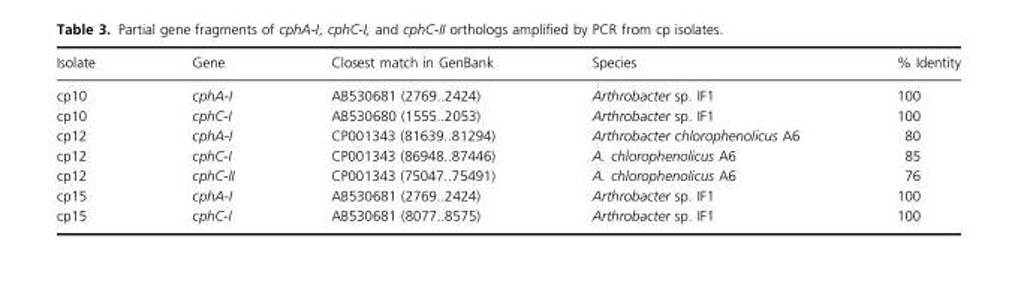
<table><thead><tr><td>Isolate</td><td>Gene</td><td>Closest match in GenBank</td><td>Species</td><td>% Identity</td></tr></thead><tbody><tr><td>cp10</td><td>cphA-I</td><td>AB530681 (2769..2424)</td><td>Arthrobacter sp. IF1</td><td>100</td></tr><tr><td>cp10</td><td>cphC-I</td><td>AB530680 (1555..2053)</td><td>Arthrobacter sp. IF1</td><td>100</td></tr><tr><td>cp12</td><td>cphA-I</td><td>CP001343 (81639..81294)</td><td>Arthrobacter chlorophenolicus A6</td><td>80</td></tr><tr><td>cp12</td><td>cphC-I</td><td>CP001343 (86948..87446)</td><td>A. chlorophenolicus A6</td><td>85</td></tr><tr><td>cp12</td><td>cphC-II</td><td>CP001343 (75047..75491)</td><td>A. chlorophenolicus A6</td><td>76</td></tr><tr><td>cp15</td><td>cphA-I</td><td>AB530681 (2769..2424)</td><td>Arthrobacter sp. IF1</td><td>100</td></tr><tr><td>cp15</td><td>cphC-I</td><td>AB530681 (8077..8575)</td><td>Arthrobacter sp. IF1</td><td>100</td></tr></tbody></table>